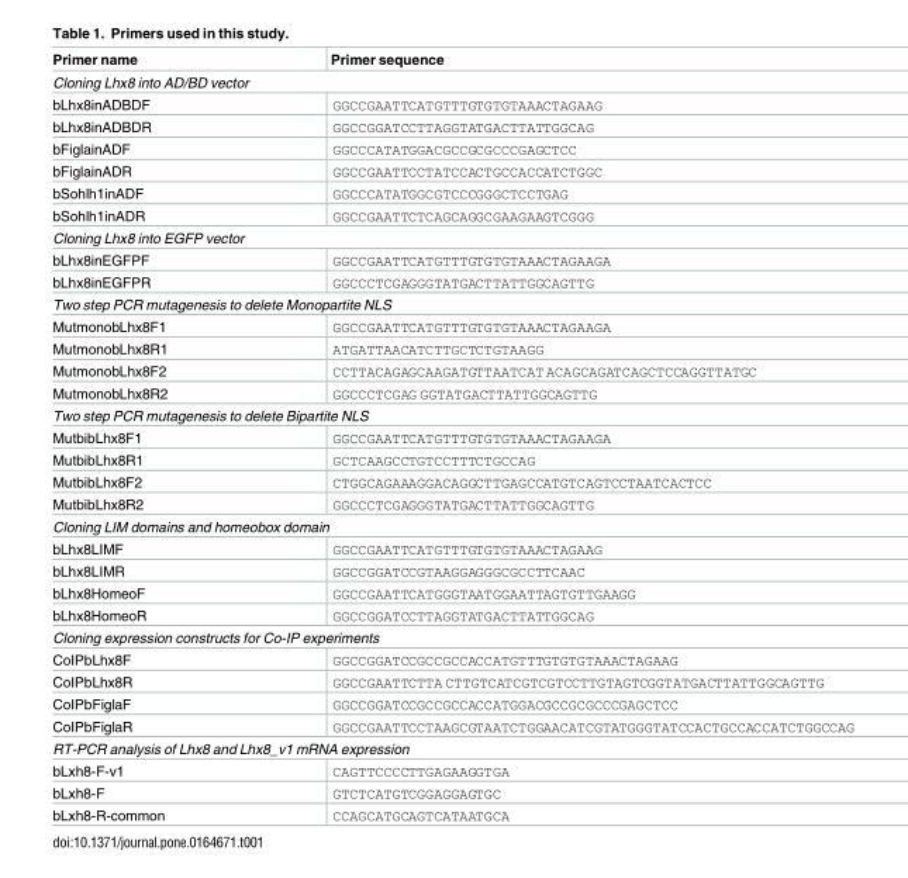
<table><thead><tr><td>Primer name</td><td>Primer sequence</td></tr></thead><tbody><tr><td colspan="2">Cloning Lhx8 into AD/BD vector</td></tr><tr><td>bLhx8inADBDF</td><td>GGCCGAATTCATGTTTGTGTGTAAACTAGAAG</td></tr><tr><td>bLhx8inADBDR</td><td>GGCCGGATCCTTAGGTATGACTTATTGGCAG</td></tr><tr><td>bFiglainADF</td><td>GGCCCATATGGACGCCGCGCCCGAGCTCC</td></tr><tr><td>bFiglainADR</td><td>GGCCGAATTCCTATCCACTGCCACCATCTGGC</td></tr><tr><td>bSohlh1inADF</td><td>GGCCCATATGGCGTCCCGGGCTCCTGAG</td></tr><tr><td>bSohlh1inADR</td><td>GGCCGAATTCTCAGCAGGCGAAGAAGTCGGG</td></tr><tr><td colspan="2">Cloning Lhx8 into EGFP vector</td></tr><tr><td>bLhx8inEGFPF</td><td>GGCCGAATTCATGTTTGTGTGTAAACTAGAAGA</td></tr><tr><td>bLhx8inEGFPR</td><td>GGCCCTCGAGGGTATGACTTATTGGCAGTTG</td></tr><tr><td colspan="2">Two step PCR mutagenesis to delete Monopartite NLS</td></tr><tr><td>MutmonobLhx8F1</td><td>GGCCGAATTCATGTTTGTGTGTAAACTAGAAGA</td></tr><tr><td>MutmonobLhx8R1</td><td>ATGATTAACATCTTGCTCTGTAAGG</td></tr><tr><td>MutmonobLhx8F2</td><td>CCTTACAGAGCAAGATGTTAATCAT ACAGCAGATCAGCTCCAGGTTATGC</td></tr><tr><td>MutmonobLhx8R2</td><td>GGCCCTCGAG GGTATGACTTATTGGCAGTTG</td></tr><tr><td colspan="2">Two step PCR mutagenesis to delete Bipartite NLS</td></tr><tr><td>MutbibLhx8F1</td><td>GGCCGAATTCATGTTTGTGTGTAAACTAGAAGA</td></tr><tr><td>MutbibLhx8R1</td><td>GCTCAAGCCTGTCCTTTCTGCCAG</td></tr><tr><td>MutbibLhx8F2</td><td>CTGGCAGAAAGGACAGGCTTGAGCCATGTCAGTCCTAATCACTCC</td></tr><tr><td>MutbibLhx8R2</td><td>GGCCCTCGAGGGTATGACTTATTGGCAGTTG</td></tr><tr><td colspan="2">Cloning LIM domains and homeobox domain</td></tr><tr><td>bLhx8LIMF</td><td>GGCCGAATTCATGTTTGTGTGTAAACTAGAAG</td></tr><tr><td>bLhx8LIMR</td><td>GGCCGGATCCGTAAGGAGGGCGCCTTCAAC</td></tr><tr><td>bLhx8HomeoF</td><td>GGCCGAATTCATGGGTAATGGAATTAGTGTTGAAGG</td></tr><tr><td>bLhx8HomeoR</td><td>GGCCGGATCCTTAGGTATGACTTATTGGCAG</td></tr><tr><td colspan="2">Cloning expression constructs for Co-IP experiments</td></tr><tr><td>CoIPbLhx8F</td><td>GGCCGGATCCGCCGCCACCATGTTTGTGTGTAAACTAGAAG</td></tr><tr><td>CoIPbLhx8R</td><td>GGCCGAATTCTTA CTTGTCATCGTCGTCCTTGTAGTCGGTATGACTTATTGGCAGTTG</td></tr><tr><td>CoIPbFiglaF</td><td>GGCCGGATCCGCCGCCACCATGGACGCCGCGCCCGAGCTCC</td></tr><tr><td>CoIPbFiglaR</td><td>GGCCGAATTCCTAAGCGTAATCTGGAACATCGTATGGGTATCCACTGCCACCATCTGGCCAG</td></tr><tr><td colspan="2">RT-PCR analysis of Lhx8 and Lhx8_v1 mRNA expression</td></tr><tr><td>bLxh8-F-v1</td><td>CAGTTCCCCTTGAGAAGGTGA</td></tr><tr><td>bLxh8-F</td><td>GTCTCATGTCGGAGGAGTGC</td></tr><tr><td>bLxh8-R-common</td><td>CCAGCATGCAGTCATAATGCA</td></tr></tbody></table>